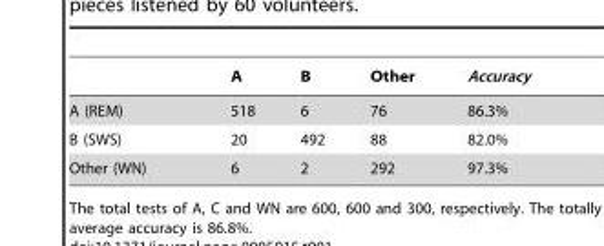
<table><thead><tr><td></td><td>A</td><td>B</td><td>Other</td><td>Accuracy</td></tr></thead><tbody><tr><td>A (REM)</td><td>518</td><td>6</td><td>76</td><td>86.3%</td></tr><tr><td>B (SWS)</td><td>20</td><td>492</td><td>88</td><td>82.0%</td></tr><tr><td>Other (WN)</td><td>6</td><td>2</td><td>292</td><td>97.3%</td></tr></tbody></table>